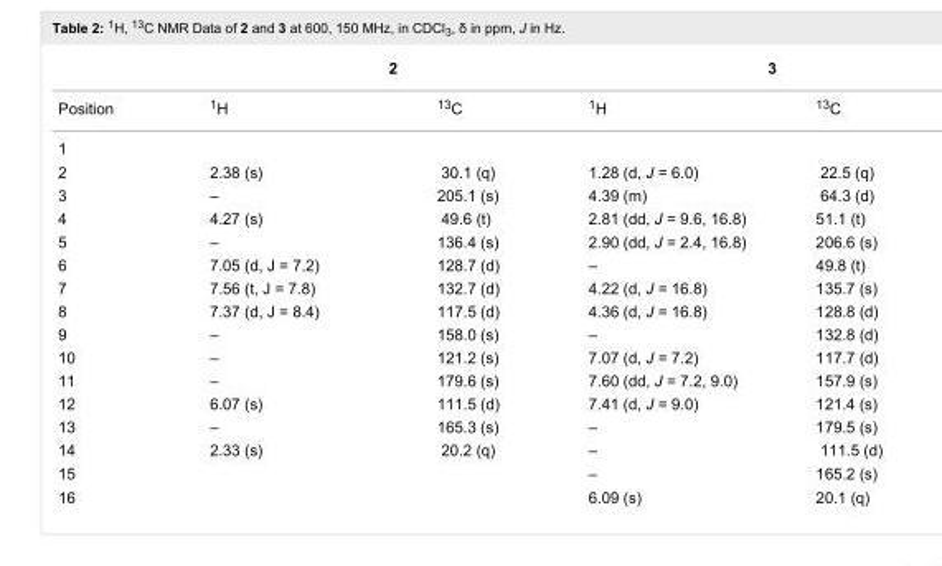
<table><thead><tr><td rowspan="2">Position</td><td colspan="2">2</td><td colspan="2">3</td></tr><tr><td><sup>1</sup>H</td><td><sup>13</sup>C</td><td><sup>1</sup>H</td><td><sup>13</sup>C</td></tr></thead><tbody><tr><td colspan="5">1</td></tr><tr><td>2</td><td>2.38 (s)</td><td>30.1 (q)</td><td>1.28 (d, J = 6.0)</td><td>22.5 (q)</td></tr><tr><td>3</td><td>–</td><td>205.1 (s)</td><td>4.39 (m)</td><td>64.3 (d)</td></tr><tr><td>4</td><td>4.27 (s)</td><td>49.6 (t)</td><td>2.81 (dd, J = 9.6, 16.8)</td><td>51.1 (t)</td></tr><tr><td>5</td><td>–</td><td>136.4 (s)</td><td>2.90 (dd, J = 2.4, 16.8)</td><td>206.6 (s)</td></tr><tr><td>6</td><td>7.05 (d, J = 7.2)</td><td>128.7 (d)</td><td>–</td><td>49.8 (t)</td></tr><tr><td>7</td><td>7.56 (t, J = 7.8)</td><td>132.7 (d)</td><td>4.22 (d, J = 16.8)</td><td>135.7 (s)</td></tr><tr><td>8</td><td>7.37 (d, J = 8.4)</td><td>117.5 (d)</td><td>4.36 (d, J = 16.8)</td><td>128.8 (d)</td></tr><tr><td>9</td><td>–</td><td>158.0 (s)</td><td>–</td><td>132.8 (d)</td></tr><tr><td>10</td><td>–</td><td>121.2 (s)</td><td>7.07 (d, J = 7.2)</td><td>117.7 (d)</td></tr><tr><td>11</td><td>–</td><td>179.6 (s)</td><td>7.60 (dd, J = 7.2, 9.0)</td><td>157.9 (s)</td></tr><tr><td>12</td><td>6.07 (s)</td><td>111.5 (d)</td><td>7.41 (d, J = 9.0)</td><td>121.4 (s)</td></tr><tr><td>13</td><td>–</td><td>165.3 (s)</td><td>–</td><td>179.5 (s)</td></tr><tr><td>14</td><td>2.33 (s)</td><td>20.2 (q)</td><td>–</td><td>111.5 (d)</td></tr><tr><td>15</td><td></td><td></td><td>–</td><td>165.2 (s)</td></tr><tr><td>16</td><td></td><td></td><td>6.09 (s)</td><td>20.1 (q)</td></tr></tbody></table>